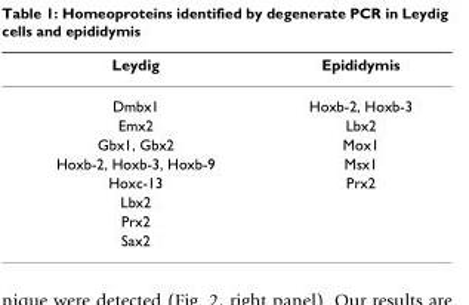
<table><thead><tr><td>Leydig</td><td>Epididymis</td></tr></thead><tbody><tr><td>Dmbx1</td><td>Hoxb-2, Hoxb-3</td></tr><tr><td>Emx2</td><td>Lbx2</td></tr><tr><td>Gbx1, Gbx2</td><td>Mox1</td></tr><tr><td>Hoxb-2, Hoxb-3, Hoxb-9</td><td>Msx1</td></tr><tr><td>Hoxc-13</td><td>Prx2</td></tr><tr><td colspan="2">Lbx2</td></tr><tr><td colspan="2">Prx2</td></tr><tr><td>Sax2</td><td></td></tr></tbody></table>